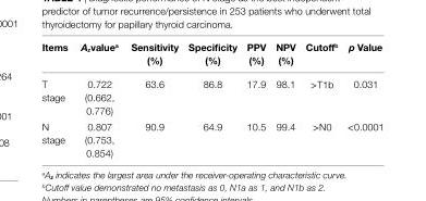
<table><thead><tr><td>items</td><td>A<sub>z</sub>value<sup>a</sup></td><td>sensitivity (%)</td><td>specificity (%)</td><td>PPV (%)</td><td>nPV (%)</td><td>cutoff<sup>b</sup></td><td>p Value</td></tr></thead><tbody><tr><td>T stage</td><td>0.722 (0.662, 0.776)</td><td>63.6</td><td>86.8</td><td>17.9</td><td>98.1</td><td>&gt;T1b</td><td>0.031</td></tr><tr><td>N stage</td><td>0.807 (0.753, 0.854)</td><td>90.9</td><td>64.9</td><td>10.5</td><td>99.4</td><td>&gt;N0</td><td>&lt;0.0001</td></tr></tbody></table>